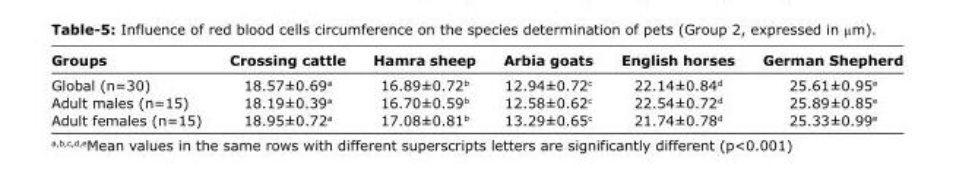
<table><thead><tr><td>Groups</td><td>Crossing cattle</td><td>Hamra sheep</td><td>Arbia goats</td><td>English horses</td><td>German Shepherd</td></tr></thead><tbody><tr><td>Global (n=30)</td><td>18.57±0.69<sup>a</sup></td><td>16.89±0.72<sup>b</sup></td><td>12.94±0.72<sup>c</sup></td><td>22.14±0.84<sup>d</sup></td><td>25.61±0.95<sup>e</sup></td></tr><tr><td>Adult males (n=15)</td><td>18.19±0.39<sup>a</sup></td><td>16.70±0.59<sup>b</sup></td><td>12.58±0.62<sup>c</sup></td><td>22.54±0.72<sup>d</sup></td><td>25.89±0.85<sup>e</sup></td></tr><tr><td>Adult females (n=15)</td><td>18.95±0.72<sup>a</sup></td><td>17.08±0.81<sup>b</sup></td><td>13.29±0.65<sup>c</sup></td><td>21.74±0.78<sup>d</sup></td><td>25.33±0.99<sup>e</sup></td></tr></tbody></table>